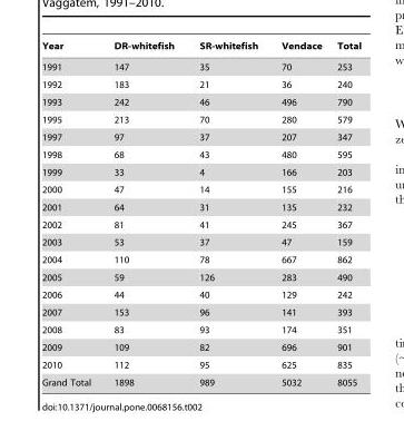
<table><thead><tr><td>Year</td><td>DR-whitefish</td><td>SR-whitefish</td><td>Vendace</td><td>Total</td></tr></thead><tbody><tr><td>1991</td><td>147</td><td>35</td><td>70</td><td>253</td></tr><tr><td>1992</td><td>183</td><td>21</td><td>36</td><td>240</td></tr><tr><td>1993</td><td>242</td><td>46</td><td>496</td><td>790</td></tr><tr><td>1995</td><td>213</td><td>70</td><td>280</td><td>579</td></tr><tr><td>1997</td><td>97</td><td>37</td><td>207</td><td>347</td></tr><tr><td>1998</td><td>68</td><td>43</td><td>480</td><td>595</td></tr><tr><td>1999</td><td>33</td><td>4</td><td>166</td><td>203</td></tr><tr><td>2000</td><td>47</td><td>14</td><td>155</td><td>216</td></tr><tr><td>2001</td><td>64</td><td>31</td><td>135</td><td>232</td></tr><tr><td>2002</td><td>81</td><td>41</td><td>245</td><td>367</td></tr><tr><td>2003</td><td>53</td><td>37</td><td>47</td><td>159</td></tr><tr><td>2004</td><td>110</td><td>78</td><td>667</td><td>862</td></tr><tr><td>2005</td><td>59</td><td>126</td><td>283</td><td>490</td></tr><tr><td>2006</td><td>44</td><td>40</td><td>129</td><td>242</td></tr><tr><td>2007</td><td>153</td><td>96</td><td>141</td><td>393</td></tr><tr><td>2008</td><td>83</td><td>93</td><td>174</td><td>351</td></tr><tr><td>2009</td><td>109</td><td>82</td><td>696</td><td>901</td></tr><tr><td>2010</td><td>112</td><td>95</td><td>625</td><td>835</td></tr><tr><td>Grand Total</td><td>1898</td><td>989</td><td>5032</td><td>8055</td></tr></tbody></table>